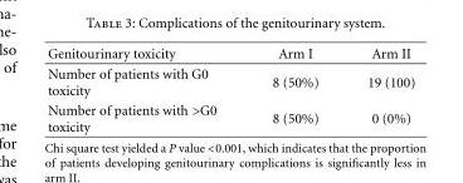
<table><thead><tr><td>Genitourinary toxicity</td><td>Arm I</td><td>Arm II</td></tr></thead><tbody><tr><td>Number of patients with G0 toxicity</td><td>8 (50%)</td><td>19 (100)</td></tr><tr><td>Number of patients with &gt;G0 toxicity</td><td>8 (50%)</td><td>0 (0%)</td></tr></tbody></table>